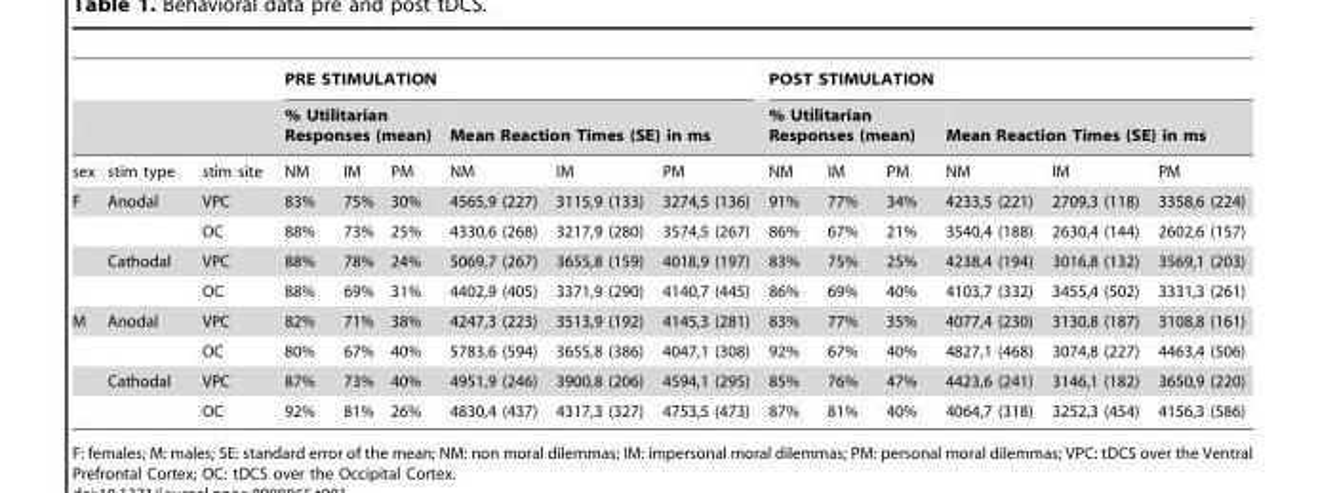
<table><thead><tr><td rowspan="3">sex</td><td rowspan="3">stim type</td><td rowspan="3">stim site</td><td colspan="6">PRE STIMULATION</td><td colspan="6">POST STIMULATION</td></tr><tr><td colspan="3">% Utilitarian Responses (mean)</td><td colspan="3">Mean Reaction Times (SE) in ms</td><td colspan="3">% Utilitarian Responses (mean)</td><td colspan="3">Mean Reaction Times (SE) in ms</td></tr><tr><td>NM</td><td>IM</td><td>PM</td><td>NM</td><td>IM</td><td>PM</td><td>NM</td><td>IM</td><td>PM</td><td>NM</td><td>IM</td><td>PM</td></tr></thead><tbody><tr><td rowspan="4">F</td><td>Anodal</td><td>VPC</td><td>83%</td><td>75%</td><td>30%</td><td>4565,9 (227)</td><td>3115,9 (133)</td><td>3274,5 (136)</td><td>91%</td><td>77%</td><td>34%</td><td>4233,5 (221)</td><td>2709,3 (118)</td><td>3358,6 (224)</td></tr><tr><td></td><td>OC</td><td>88%</td><td>73%</td><td>25%</td><td>4330,6 (268)</td><td>3217,9 (280)</td><td>3574,5 (267)</td><td>86%</td><td>67%</td><td>21%</td><td>3540,4 (188)</td><td>2630,4 (144)</td><td>2602,6 (157)</td></tr><tr><td>Cathodal</td><td>VPC</td><td>88%</td><td>78%</td><td>24%</td><td>5069,7 (267)</td><td>3655,8 (159)</td><td>4018,9 (197)</td><td>83%</td><td>75%</td><td>25%</td><td>4238,4 (194)</td><td>3016,8 (132)</td><td>3569,1 (203)</td></tr><tr><td></td><td>OC</td><td>88%</td><td>69%</td><td>31%</td><td>4402,9 (405)</td><td>3371,9 (290)</td><td>4140,7 (445)</td><td>86%</td><td>69%</td><td>40%</td><td>4103,7 (332)</td><td>3455,4 (502)</td><td>3331,3 (261)</td></tr><tr><td rowspan="4">M</td><td>Anodal</td><td>VPC</td><td>82%</td><td>71%</td><td>38%</td><td>4247,3 (223)</td><td>3513,9 (192)</td><td>4145,3 (281)</td><td>83%</td><td>77%</td><td>35%</td><td>4077,4 (230)</td><td>3130,8 (187)</td><td>3108,8 (161)</td></tr><tr><td></td><td>OC</td><td>80%</td><td>67%</td><td>40%</td><td>5783,6 (594)</td><td>3655,8 (386)</td><td>4047,1 (308)</td><td>92%</td><td>67%</td><td>40%</td><td>4827,1 (468)</td><td>3074,8 (227)</td><td>4463,4 (506)</td></tr><tr><td>Cathodal</td><td>VPC</td><td>87%</td><td>73%</td><td>40%</td><td>4951,9 (246)</td><td>3900,8 (206)</td><td>4594,1 (295)</td><td>85%</td><td>76%</td><td>47%</td><td>4423,6 (241)</td><td>3146,1 (182)</td><td>3650,9 (220)</td></tr><tr><td></td><td>OC</td><td>92%</td><td>81%</td><td>26%</td><td>4830,4 (437)</td><td>4317,3 (327)</td><td>4753,5 (473)</td><td>87%</td><td>81%</td><td>40%</td><td>4064,7 (318)</td><td>3252,3 (454)</td><td>4156,3 (586)</td></tr></tbody></table>